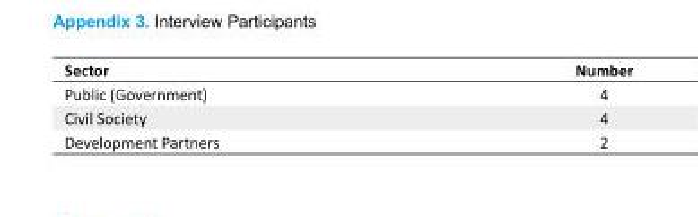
<table><tbody><tr><td>Sector</td><td>Number</td></tr><tr><td>Public (Government)</td><td>4</td></tr><tr><td>Civil Society</td><td>4</td></tr><tr><td>Development Partners</td><td>2</td></tr></tbody></table>